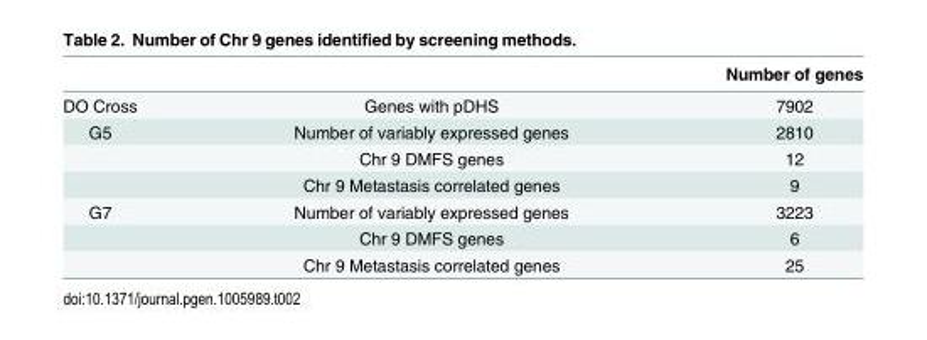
<table><thead><tr><td></td><td></td><td>Number of genes</td></tr></thead><tbody><tr><td>DO Cross</td><td>Genes with pDHS</td><td>7902</td></tr><tr><td rowspan="3">G5</td><td>Number of variably expressed genes</td><td>2810</td></tr><tr><td>Chr 9 DMFS genes</td><td>12</td></tr><tr><td>Chr 9 Metastasis correlated genes</td><td>9</td></tr><tr><td rowspan="3">G7</td><td>Number of variably expressed genes</td><td>3223</td></tr><tr><td>Chr 9 DMFS genes</td><td>6</td></tr><tr><td>Chr 9 Metastasis correlated genes</td><td>25</td></tr></tbody></table>